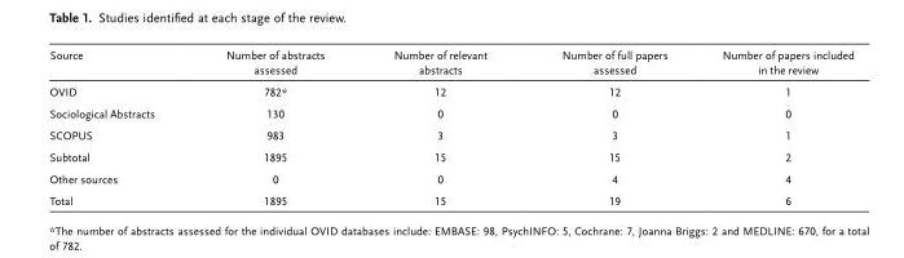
<table><thead><tr><td>Source</td><td>Number of abstracts assessed</td><td>Number of relevant abstracts</td><td>Number of full papers assessed</td><td>Number of papers included in the review</td></tr></thead><tbody><tr><td>OVID</td><td>782*</td><td>12</td><td>12</td><td>1</td></tr><tr><td>Sociological Abstracts</td><td>130</td><td>0</td><td>0</td><td>0</td></tr><tr><td>SCOPUS</td><td>983</td><td>3</td><td>3</td><td>1</td></tr><tr><td>Subtotal</td><td>1895</td><td>15</td><td>15</td><td>2</td></tr><tr><td>Other sources</td><td>0</td><td>0</td><td>4</td><td>4</td></tr><tr><td>Total</td><td>1895</td><td>15</td><td>19</td><td>6</td></tr></tbody></table>